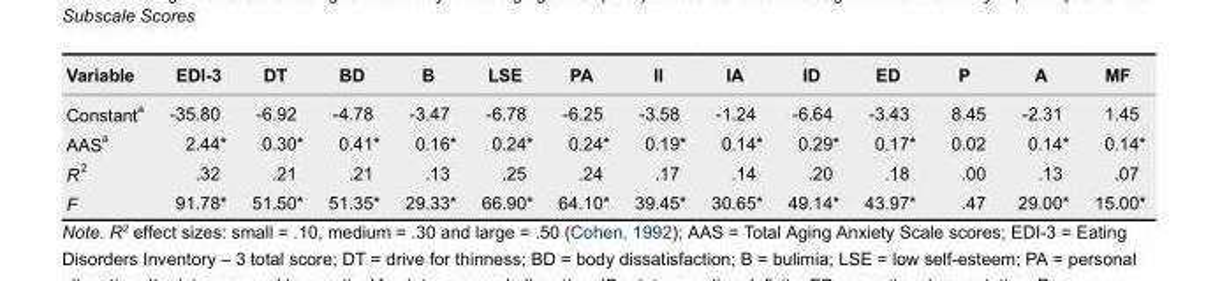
<table><thead><tr><td>Variable</td><td>EDI-3</td><td>DT</td><td>BD</td><td>B</td><td>LSE</td><td>PA</td><td>II</td><td>IA</td><td>ID</td><td>ED</td><td>P</td><td>A</td><td>MF</td></tr></thead><tbody><tr><td>Constant <sup>a</sup></td><td>-35.80</td><td>-6.92</td><td>-4.78</td><td>-3.47</td><td>-6.78</td><td>-6.25</td><td>-3.58</td><td>-1.24</td><td>-6.64</td><td>-3.43</td><td>8.45</td><td>-2.31</td><td>1.45</td></tr><tr><td>AAS <sup>a</sup></td><td>2.44*</td><td>0.30*</td><td>0.41*</td><td>0.16*</td><td>0.24*</td><td>0.24*</td><td>0.19*</td><td>0.14*</td><td>0.29*</td><td>0.17*</td><td>0.02</td><td>0.14*</td><td>0.14*</td></tr><tr><td>R <sup>2</sup></td><td>.32</td><td>.21</td><td>.21</td><td>.13</td><td>.25</td><td>.24</td><td>.17</td><td>.14</td><td>.20</td><td>.18</td><td>.00</td><td>.13</td><td>.07</td></tr><tr><td>F</td><td>91.78*</td><td>51.50*</td><td>51.35*</td><td>29.33*</td><td>66.90*</td><td>64.10*</td><td>39.45*</td><td>30.65*</td><td>49.14*</td><td>43.97*</td><td>.47</td><td>29.00*</td><td>15.00*</td></tr></tbody></table>